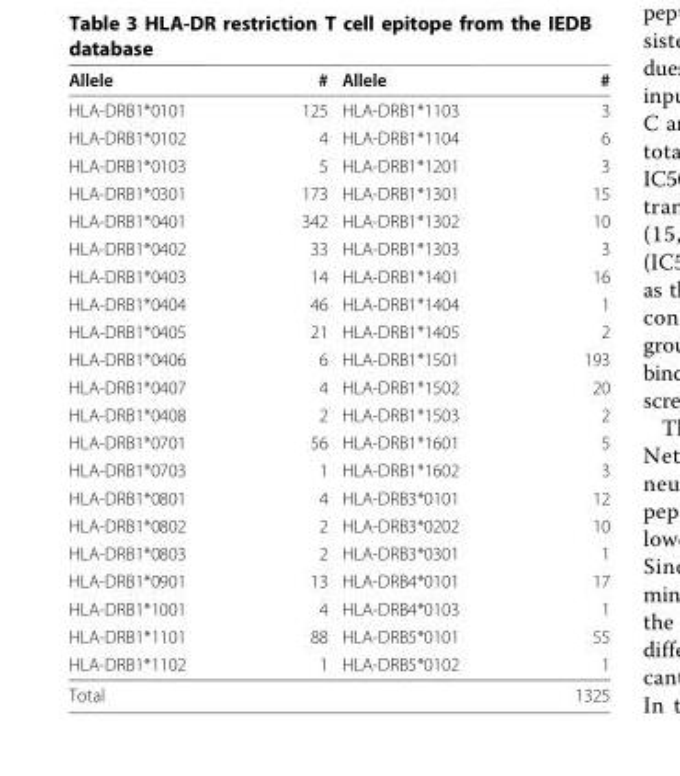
<table><thead><tr><td>Allele</td><td>#</td><td>Allele</td><td>#</td></tr></thead><tbody><tr><td>HLA-DRB1*0101</td><td>125</td><td>HLA-DRB1*1103</td><td>3</td></tr><tr><td>HLA-DRB1*0102</td><td>4</td><td>HLA-DRB1*1104</td><td>6</td></tr><tr><td>HLA-DRB1*0103</td><td>5</td><td>HLA-DRB1*1201</td><td>3</td></tr><tr><td>HLA-DRB1*0301</td><td>173</td><td>HLA-DRB1*1301</td><td>15</td></tr><tr><td>HLA-DRB1*0401</td><td>342</td><td>HLA-DRB1*1302</td><td>10</td></tr><tr><td>HLA-DRB1*0402</td><td>33</td><td>HLA-DRB1*1303</td><td>3</td></tr><tr><td>HLA-DRB1*0403</td><td>14</td><td>HLA-DRB1*1401</td><td>16</td></tr><tr><td>HLA-DRB1*0404</td><td>46</td><td>HLA-DRB1*1404</td><td>1</td></tr><tr><td>HLA-DRB1*0405</td><td>21</td><td>HLA-DRB1*1405</td><td>2</td></tr><tr><td>HLA-DRB1*0406</td><td>6</td><td>HLA-DRB1*1501</td><td>193</td></tr><tr><td>HLA-DRB1*0407</td><td>4</td><td>HLA-DRB1*1502</td><td>20</td></tr><tr><td>HLA-DRB1*0408</td><td>2</td><td>HLA-DRB1*1503</td><td>2</td></tr><tr><td>HLA-DRB1*0701</td><td>56</td><td>HLA-DRB1*1601</td><td>5</td></tr><tr><td>HLA-DRB1*0703</td><td>1</td><td>HLA-DRB1*1602</td><td>3</td></tr><tr><td>HLA-DRB1*0801</td><td>4</td><td>HLA-DRB3*0101</td><td>12</td></tr><tr><td>HLA-DRB1*0802</td><td>2</td><td>HLA-DRB3*0202</td><td>10</td></tr><tr><td>HLA-DRB1*0803</td><td>2</td><td>HLA-DRB3*0301</td><td>1</td></tr><tr><td>HLA-DRB1*0901</td><td>13</td><td>HLA-DRB4*0101</td><td>17</td></tr><tr><td>HLA-DRB1*1001</td><td>4</td><td>HLA-DRB4*0103</td><td>1</td></tr><tr><td>HLA-DRB1*1101</td><td>88</td><td>HLA-DRB5*0101</td><td>55</td></tr><tr><td>HLA-DRB1*1102</td><td>1</td><td>HLA-DRB5*0102</td><td>1</td></tr><tr><td>Total</td><td></td><td></td><td>1325</td></tr></tbody></table>